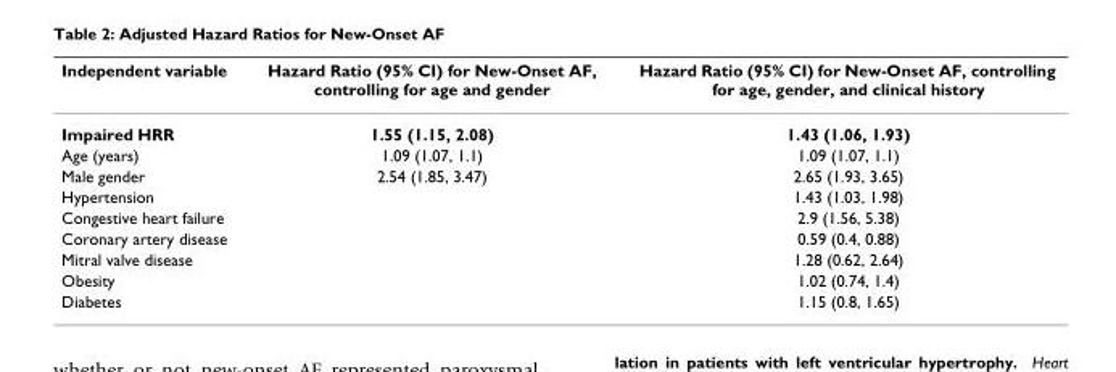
<table><thead><tr><td>Independent variable</td><td>Hazard Ratio (95% CI) for New-Onset AF, controlling for age and gender</td><td>Hazard Ratio (95% CI) for New-Onset AF, controlling for age, gender, and clinical history</td></tr></thead><tbody><tr><td>Impaired HRR</td><td>1.55 (1.15, 2.08)</td><td>1.43 (1.06, 1.93)</td></tr><tr><td>Age (years)</td><td>1.09 (1.07, 1.1)</td><td>1.09 (1.07, 1.1)</td></tr><tr><td>Male gender</td><td>2.54 (1.85, 3.47)</td><td>2.65 (1.93, 3.65)</td></tr><tr><td>Hypertension</td><td></td><td>1.43 (1.03, 1.98)</td></tr><tr><td>Congestive heart failure</td><td></td><td>2.9 (1.56, 5.38)</td></tr><tr><td>Coronary artery disease</td><td></td><td>0.59 (0.4, 0.88)</td></tr><tr><td>Mitral valve disease</td><td></td><td>1.28 (0.62, 2.64)</td></tr><tr><td>Obesity</td><td></td><td>1.02 (0.74, 1.4)</td></tr><tr><td>Diabetes</td><td></td><td>1.15 (0.8, 1.65)</td></tr></tbody></table>